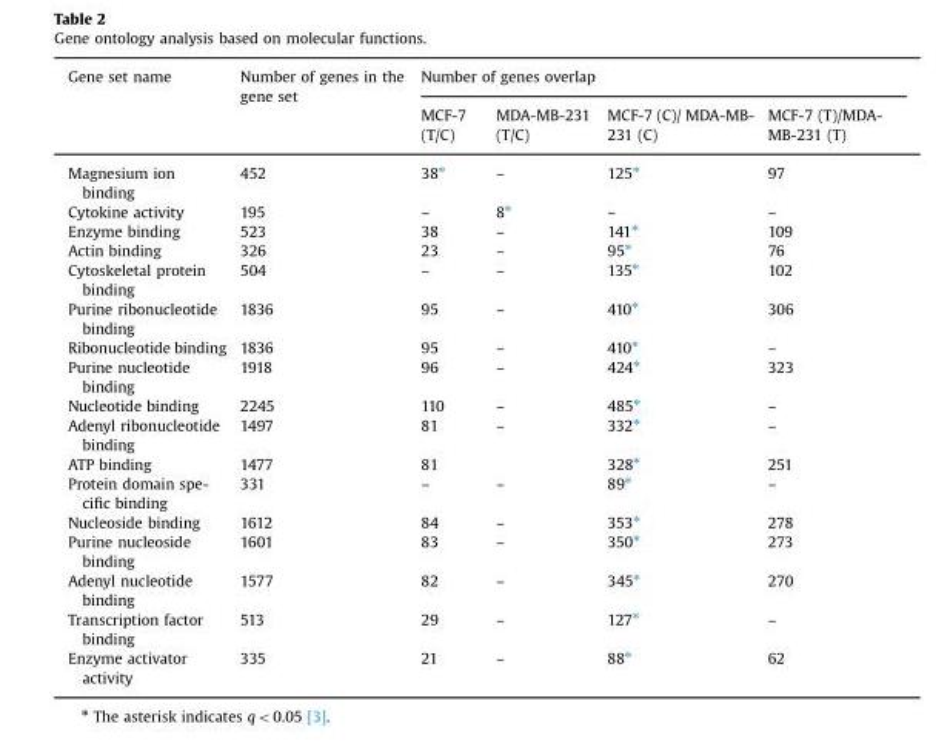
<table><thead><tr><td rowspan="2">Gene set name</td><td rowspan="2">Number of genes in the gene set</td><td colspan="4">Number of genes overlap</td></tr><tr><td>MCF-7 (T/C)</td><td>MDA-MB-231 (T/C)</td><td>MCF-7 (C)/ MDA-MB- 231 (C)</td><td>MCF-7 (T)/MDA- MB-231 (T)</td></tr></thead><tbody><tr><td>Magnesium ion binding</td><td>452</td><td>38⁎</td><td>–</td><td>125⁎</td><td>97</td></tr><tr><td>Cytokine activity</td><td>195</td><td>–</td><td>8⁎</td><td>–</td><td>–</td></tr><tr><td>Enzyme binding</td><td>523</td><td>38</td><td>–</td><td>141⁎</td><td>109</td></tr><tr><td>Actin binding</td><td>326</td><td>23</td><td>–</td><td>95⁎</td><td>76</td></tr><tr><td>Cytoskeletal protein binding</td><td>504</td><td>–</td><td>–</td><td>135⁎</td><td>102</td></tr><tr><td>Purine ribonucleotide binding</td><td>1836</td><td>95</td><td>–</td><td>410⁎</td><td>306</td></tr><tr><td>Ribonucleotide binding</td><td>1836</td><td>95</td><td>–</td><td>410⁎</td><td>–</td></tr><tr><td>Purine nucleotide binding</td><td>1918</td><td>96</td><td>–</td><td>424⁎</td><td>323</td></tr><tr><td>Nucleotide binding</td><td>2245</td><td>110</td><td>–</td><td>485⁎</td><td>–</td></tr><tr><td>Adenyl ribonucleotide binding</td><td>1497</td><td>81</td><td>–</td><td>332⁎</td><td>–</td></tr><tr><td>ATP binding</td><td>1477</td><td>81</td><td></td><td>328⁎</td><td>251</td></tr><tr><td>Protein domain spe- cific binding</td><td>331</td><td>–</td><td>–</td><td>89⁎</td><td>–</td></tr><tr><td>Nucleoside binding</td><td>1612</td><td>84</td><td>–</td><td>353⁎</td><td>278</td></tr><tr><td>Purine nucleoside binding</td><td>1601</td><td>83</td><td>–</td><td>350⁎</td><td>273</td></tr><tr><td>Adenyl nucleotide binding</td><td>1577</td><td>82</td><td>–</td><td>345⁎</td><td>270</td></tr><tr><td>Transcription factor binding</td><td>513</td><td>29</td><td>–</td><td>127⁎</td><td>–</td></tr><tr><td>Enzyme activator activity</td><td>335</td><td>21</td><td>–</td><td>88⁎</td><td>62</td></tr></tbody></table>